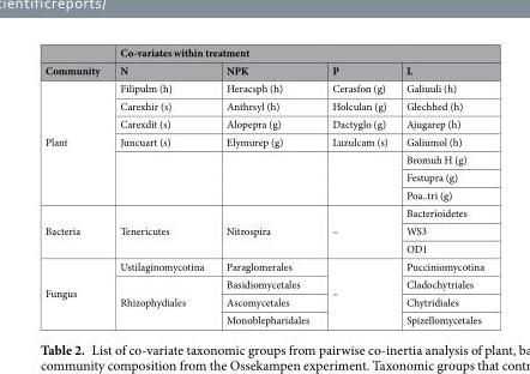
<table><thead><tr><td rowspan="2">Community</td><td colspan="4">Co-variates within treatment</td></tr><tr><td>N</td><td>NPK</td><td>P</td><td>L</td></tr></thead><tbody><tr><td rowspan="7">Plant</td><td>Filipulm (h)</td><td>Heracsph (h)</td><td>Cerasfon (g)</td><td>Galiuuli (h)</td></tr><tr><td>Carexhir (s)</td><td>Anthrsyl (h)</td><td>Holculan (g)</td><td>Glechhed (h)</td></tr><tr><td>Carexdit (s)</td><td>Alopepra (g)</td><td>Dactyglo (g)</td><td>Ajugarep (h)</td></tr><tr><td>Juncuart (s)</td><td>Elymurep (g)</td><td>Luzulcam (s)</td><td>Galiumol (h)</td></tr><tr><td rowspan="3"></td><td rowspan="3"></td><td rowspan="3"></td><td>Bromuh H (g)</td></tr><tr><td>Festupra (g)</td></tr><tr><td>Poa..tri (g)</td></tr><tr><td rowspan="3">Bacteria</td><td rowspan="3">Tenericutes</td><td rowspan="3">Nitrospira</td><td rowspan="3">–</td><td>Bacterioidetes</td></tr><tr><td>WS3</td></tr><tr><td>OD1</td></tr><tr><td rowspan="4">Fungus</td><td>Ustilaginomycotina</td><td>Paraglomerales</td><td rowspan="4">–</td><td>Pucciniomycotina</td></tr><tr><td rowspan="3">Rhizophydiales</td><td>Basidiomycetales</td><td>Cladochytriales</td></tr><tr><td>Ascomycetales</td><td>Chytridiales</td></tr><tr><td>Monoblepharidales</td><td>Spizellomycetales</td></tr></tbody></table>